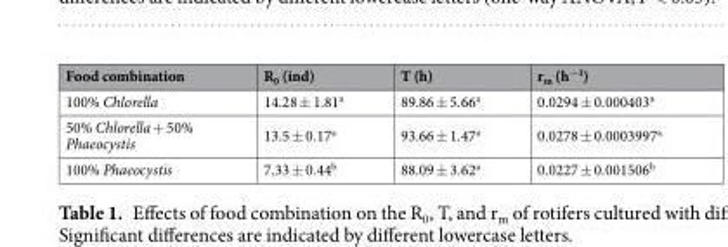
<table><thead><tr><td>Food combination</td><td>R<sub>0</sub> (ind)</td><td>T (h)</td><td>r<sub>m</sub> (h<sup>−1</sup>)</td></tr></thead><tbody><tr><td>100% Chlorella</td><td>14.28 ± 1.81<sup>a</sup></td><td>89.86 ± 5.66<sup>a</sup></td><td>0.0294 ± 0.000403<sup>a</sup></td></tr><tr><td>50% Chlorella + 50% Phaeocystis</td><td>13.5 ± 0.17<sup>a</sup></td><td>93.66 ± 1.47<sup>a</sup></td><td>0.0278 ± 0.0003997<sup>a</sup></td></tr><tr><td>100% Phaeocystis</td><td>7.33 ± 0.44<sup>b</sup></td><td>88.09 ± 3.62<sup>a</sup></td><td>0.0227 ± 0.001506<sup>b</sup></td></tr></tbody></table>